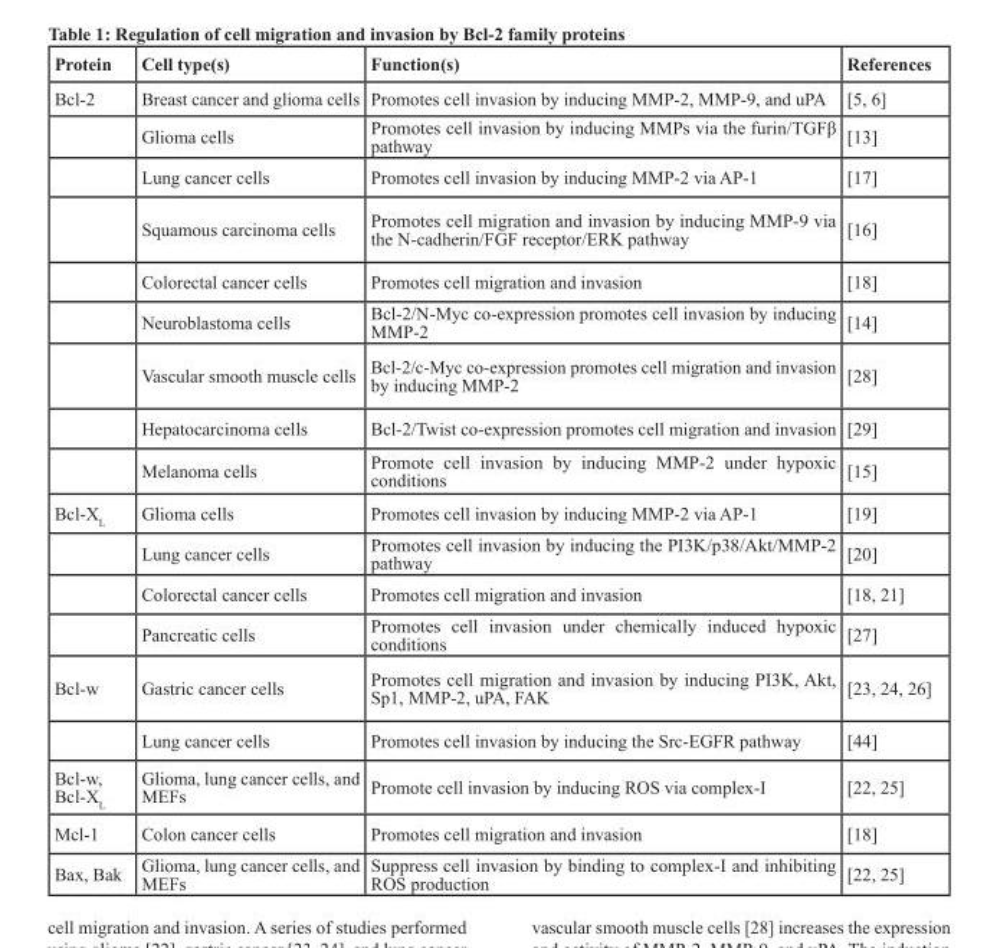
<table><thead><tr><td>Protein</td><td>Cell type(s)</td><td>Function(s)</td><td>References</td></tr></thead><tbody><tr><td rowspan="9">Bcl-2</td><td>Breast cancer and glioma cells</td><td>Promotes cell invasion by inducing MMP-2, MMP-9, and uPA</td><td>[5, 6]</td></tr><tr><td>Glioma cells</td><td>Promotes cell invasion by inducing MMPs via the furin/TGFβ pathway</td><td>[13]</td></tr><tr><td>Lung cancer cells</td><td>Promotes cell invasion by inducing MMP-2 via AP-1</td><td>[17]</td></tr><tr><td>Squamous carcinoma cells</td><td>Promotes cell migration and invasion by inducing MMP-9 via the N-cadherin/FGF receptor/ERK pathway</td><td>[16]</td></tr><tr><td>Colorectal cancer cells</td><td>Promotes cell migration and invasion</td><td>[18]</td></tr><tr><td>Neuroblastoma cells</td><td>Bcl-2/N-Myc co-expression promotes cell invasion by inducing MMP-2</td><td>[14]</td></tr><tr><td>Vascular smooth muscle cells</td><td>Bcl-2/c-Myc co-expression promotes cell migration and invasion by inducing MMP-2</td><td>[28]</td></tr><tr><td>Hepatocarcinoma cells</td><td>Bcl-2/Twist co-expression promotes cell migration and invasion</td><td>[29]</td></tr><tr><td>Melanoma cells</td><td>Promote cell invasion by inducing MMP-2 under hypoxic conditions</td><td>[15]</td></tr><tr><td rowspan="4">Bcl-X<sub>L</sub></td><td>Glioma cells</td><td>Promotes cell invasion by inducing MMP-2 via AP-1</td><td>[19]</td></tr><tr><td>Lung cancer cells</td><td>Promotes cell invasion by inducing the PI3K/p38/Akt/MMP-2 pathway</td><td>[20]</td></tr><tr><td>Colorectal cancer cells</td><td>Promotes cell migration and invasion</td><td>[18, 21]</td></tr><tr><td>Pancreatic cells</td><td>Promotes cell invasion under chemically induced hypoxic conditions</td><td>[27]</td></tr><tr><td rowspan="2">Bcl-w</td><td>Gastric cancer cells</td><td>Promotes cell migration and invasion by inducing PI3K, Akt, Sp1, MMP-2, uPA, FAK</td><td>[23, 24, 26]</td></tr><tr><td>Lung cancer cells</td><td>Promotes cell invasion by inducing the Src-EGFR pathway</td><td>[44]</td></tr><tr><td>Bcl-w, Bcl-X<sub>L</sub></td><td>Glioma, lung cancer cells, and MEFs</td><td>Promote cell invasion by inducing ROS via complex-I</td><td>[22, 25]</td></tr><tr><td>Mcl-1</td><td>Colon cancer cells</td><td>Promotes cell migration and invasion</td><td>[18]</td></tr><tr><td>Bax, Bak</td><td>Glioma, lung cancer cells, and MEFs</td><td>Suppress cell invasion by binding to complex-I and inhibiting ROS production</td><td>[22, 25]</td></tr></tbody></table>